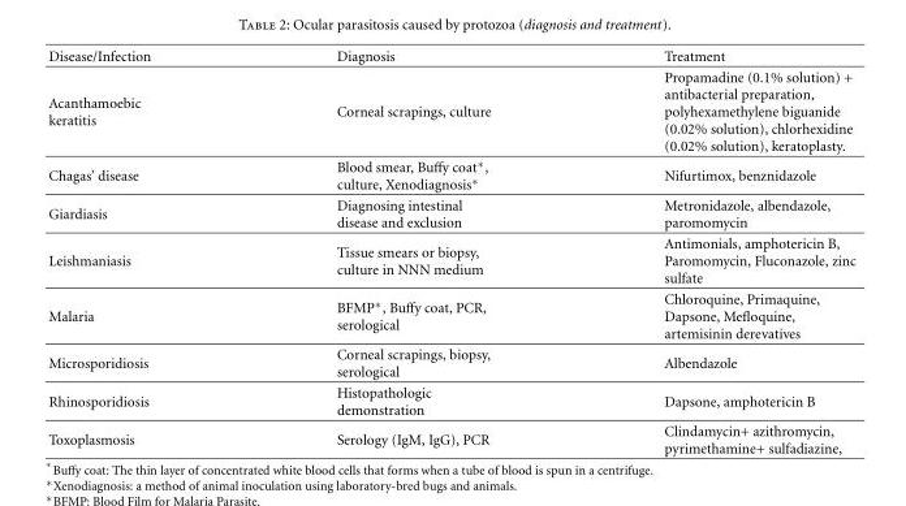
<table><thead><tr><td>Disease/Infection</td><td>Diagnosis</td><td>Treatment</td></tr></thead><tbody><tr><td>Acanthamoebic keratitis</td><td>Corneal scrapings, culture</td><td>Propamadine (0.1% solution) + antibacterial preparation, polyhexamethylene biguanide (0.02% solution), chlorhexidine (0.02% solution), keratoplasty.</td></tr><tr><td>Chagas’ disease</td><td>Blood smear, Buffy coat∗, culture, Xenodiagnosis∗</td><td>Nifurtimox, benznidazole</td></tr><tr><td>Giardiasis</td><td>Diagnosing intestinal disease and exclusion</td><td>Metronidazole, albendazole, paromomycin</td></tr><tr><td>Leishmaniasis</td><td>Tissue smears or biopsy, culture in NNN medium</td><td>Antimonials, amphotericin B, Paromomycin, Fluconazole, zinc sulfate</td></tr><tr><td>Malaria</td><td>BFMP∗, Buffy coat, PCR, serological</td><td>Chloroquine, Primaquine, Dapsone, Mefloquine, artemisinin derevatives</td></tr><tr><td>Microsporidiosis</td><td>Corneal scrapings, biopsy, serological</td><td>Albendazole</td></tr><tr><td>Rhinosporidiosis</td><td>Histopathologic demonstration</td><td>Dapsone, amphotericin B</td></tr><tr><td>Toxoplasmosis</td><td>Serology (IgM, IgG), PCR</td><td>Clindamycin+ azithromycin, pyrimethamine+ sulfadiazine,</td></tr></tbody></table>